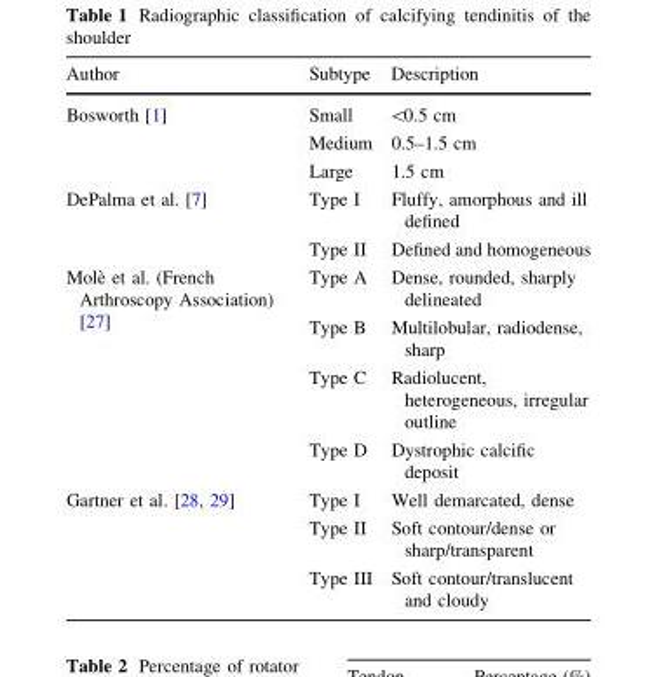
<table><thead><tr><td>Author</td><td>Subtype</td><td>Description</td></tr></thead><tbody><tr><td rowspan="3">Bosworth [1]</td><td>Small</td><td>&lt;0.5 cm</td></tr><tr><td>Medium</td><td>0.5–1.5 cm</td></tr><tr><td>Large</td><td>1.5 cm</td></tr><tr><td rowspan="2">DePalma et al. [7]</td><td>Type I</td><td>Fluffy, amorphous and ill defined</td></tr><tr><td>Type II</td><td>Defined and homogeneous</td></tr><tr><td rowspan="4">Mole` et al. (French Arthroscopy Association) [27]</td><td>Type A</td><td>Dense, rounded, sharply delineated</td></tr><tr><td>Type B</td><td>Multilobular, radiodense, sharp</td></tr><tr><td>Type C</td><td>Radiolucent, heterogeneous, irregular outline</td></tr><tr><td>Type D</td><td>Dystrophic calcific deposit</td></tr><tr><td rowspan="3">Gartner et al. [28, 29]</td><td>Type I</td><td>Well demarcated, dense</td></tr><tr><td>Type II</td><td>Soft contour/dense or sharp/transparent</td></tr><tr><td>Type III</td><td>Soft contour/translucent and cloudy</td></tr></tbody></table>